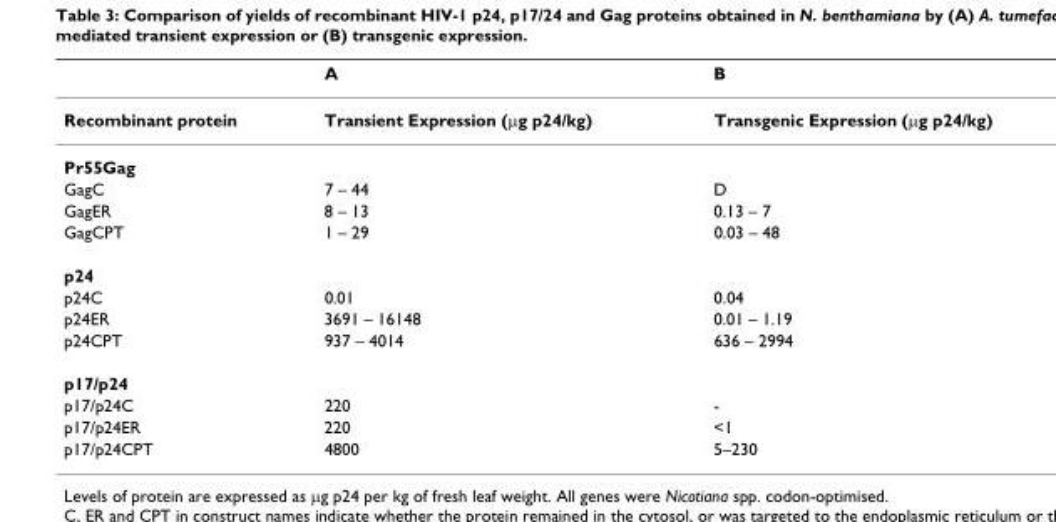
<table><thead><tr><td></td><td>A</td><td>B</td></tr></thead><tbody><tr><td>Recombinant protein</td><td>Transient Expression (μg p24/kg)</td><td>Transgenic Expression (μg p24/kg)</td></tr><tr><td colspan="3">Pr55Gag</td></tr><tr><td>GagC</td><td>7 – 44</td><td>D</td></tr><tr><td>GagER</td><td>8 – 13</td><td>0.13 – 7</td></tr><tr><td>GagCPT</td><td>1 – 29</td><td>0.03 – 48</td></tr><tr><td colspan="3">p24</td></tr><tr><td>p24C</td><td>0.01</td><td>0.04</td></tr><tr><td>p24ER</td><td>3691 – 16148</td><td>0.01 – 1.19</td></tr><tr><td>p24CPT</td><td>937 – 4014</td><td>636 – 2994</td></tr><tr><td colspan="3">p17/p24</td></tr><tr><td>p17/p24C</td><td>220</td><td>-</td></tr><tr><td>p17/p24ER</td><td>220</td><td>&lt;1</td></tr><tr><td>p17/p24CPT</td><td>4800</td><td>5–230</td></tr></tbody></table>